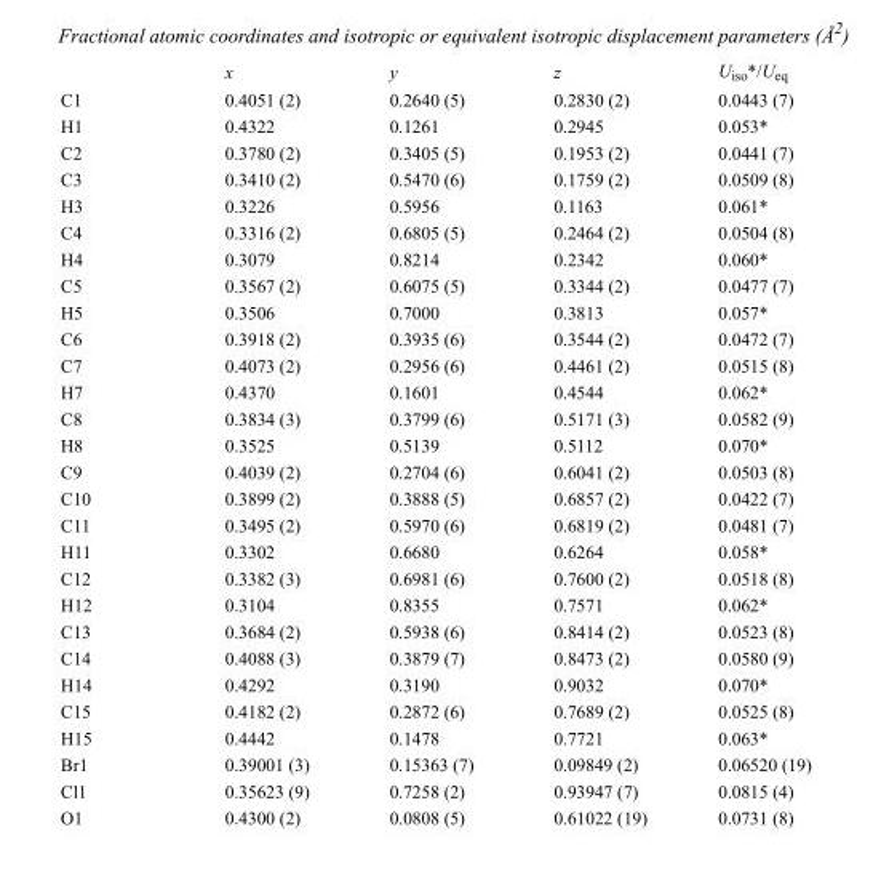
<table><thead><tr><td></td><td>x</td><td>y</td><td>z</td><td>U<sub>iso</sub>*/U<sub>eq</sub></td></tr></thead><tbody><tr><td>C1</td><td>0.4051 (2)</td><td>0.2640 (5)</td><td>0.2830 (2)</td><td>0.0443 (7)</td></tr><tr><td>H1</td><td>0.4322</td><td>0.1261</td><td>0.2945</td><td>0.053*</td></tr><tr><td>C2</td><td>0.3780 (2)</td><td>0.3405 (5)</td><td>0.1953 (2)</td><td>0.0441 (7)</td></tr><tr><td>C3</td><td>0.3410 (2)</td><td>0.5470 (6)</td><td>0.1759 (2)</td><td>0.0509 (8)</td></tr><tr><td>H3</td><td>0.3226</td><td>0.5956</td><td>0.1163</td><td>0.061*</td></tr><tr><td>C4</td><td>0.3316 (2)</td><td>0.6805 (5)</td><td>0.2464 (2)</td><td>0.0504 (8)</td></tr><tr><td>H4</td><td>0.3079</td><td>0.8214</td><td>0.2342</td><td>0.060*</td></tr><tr><td>C5</td><td>0.3567 (2)</td><td>0.6075 (5)</td><td>0.3344 (2)</td><td>0.0477 (7)</td></tr><tr><td>H5</td><td>0.3506</td><td>0.7000</td><td>0.3813</td><td>0.057*</td></tr><tr><td>C6</td><td>0.3918 (2)</td><td>0.3935 (6)</td><td>0.3544 (2)</td><td>0.0472 (7)</td></tr><tr><td>C7</td><td>0.4073 (2)</td><td>0.2956 (6)</td><td>0.4461 (2)</td><td>0.0515 (8)</td></tr><tr><td>H7</td><td>0.4370</td><td>0.1601</td><td>0.4544</td><td>0.062*</td></tr><tr><td>C8</td><td>0.3834 (3)</td><td>0.3799 (6)</td><td>0.5171 (3)</td><td>0.0582 (9)</td></tr><tr><td>H8</td><td>0.3525</td><td>0.5139</td><td>0.5112</td><td>0.070*</td></tr><tr><td>C9</td><td>0.4039 (2)</td><td>0.2704 (6)</td><td>0.6041 (2)</td><td>0.0503 (8)</td></tr><tr><td>C10</td><td>0.3899 (2)</td><td>0.3888 (5)</td><td>0.6857 (2)</td><td>0.0422 (7)</td></tr><tr><td>C11</td><td>0.3495 (2)</td><td>0.5970 (6)</td><td>0.6819 (2)</td><td>0.0481 (7)</td></tr><tr><td>H11</td><td>0.3302</td><td>0.6680</td><td>0.6264</td><td>0.058*</td></tr><tr><td>C12</td><td>0.3382 (3)</td><td>0.6981 (6)</td><td>0.7600 (2)</td><td>0.0518 (8)</td></tr><tr><td>H12</td><td>0.3104</td><td>0.8355</td><td>0.7571</td><td>0.062*</td></tr><tr><td>C13</td><td>0.3684 (2)</td><td>0.5938 (6)</td><td>0.8414 (2)</td><td>0.0523 (8)</td></tr><tr><td>C14</td><td>0.4088 (3)</td><td>0.3879 (7)</td><td>0.8473 (2)</td><td>0.0580 (9)</td></tr><tr><td>H14</td><td>0.4292</td><td>0.3190</td><td>0.9032</td><td>0.070*</td></tr><tr><td>C15</td><td>0.4182 (2)</td><td>0.2872 (6)</td><td>0.7689 (2)</td><td>0.0525 (8)</td></tr><tr><td>H15</td><td>0.4442</td><td>0.1478</td><td>0.7721</td><td>0.063*</td></tr><tr><td>Br1</td><td>0.39001 (3)</td><td>0.15363 (7)</td><td>0.09849 (2)</td><td>0.06520 (19)</td></tr><tr><td>Cl1</td><td>0.35623 (9)</td><td>0.7258 (2)</td><td>0.93947 (7)</td><td>0.0815 (4)</td></tr><tr><td>O1</td><td>0.4300 (2)</td><td>0.0808 (5)</td><td>0.61022 (19)</td><td>0.0731 (8)</td></tr></tbody></table>